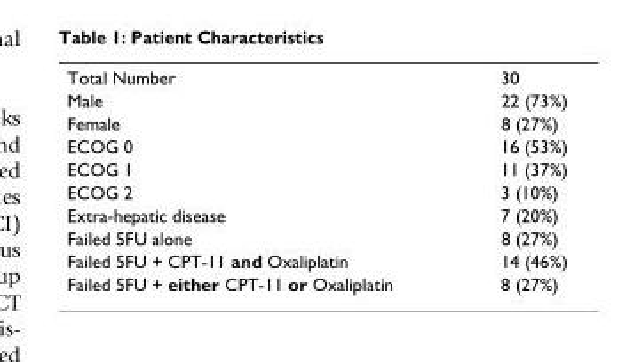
<table><tbody><tr><td>Total Number</td><td>30</td></tr><tr><td>Male</td><td>22 (73%)</td></tr><tr><td>Female</td><td>8 (27%)</td></tr><tr><td>ECOG 0</td><td>16 (53%)</td></tr><tr><td>ECOG 1</td><td>11 (37%)</td></tr><tr><td>ECOG 2</td><td>3 (10%)</td></tr><tr><td>Extra-hepatic disease</td><td>7 (20%)</td></tr><tr><td>Failed 5FU alone</td><td>8 (27%)</td></tr><tr><td>Failed 5FU + CPT-11 and Oxaliplatin</td><td>14 (46%)</td></tr><tr><td>Failed 5FU + either CPT-11 or Oxaliplatin</td><td>8 (27%)</td></tr></tbody></table>